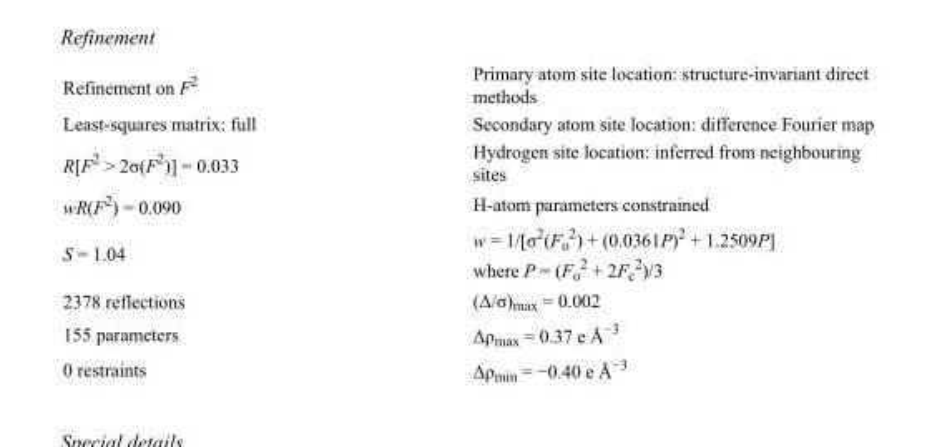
<table><tbody><tr><td>Refinement on F<sup>2</sup></td><td>Primary atom site location: structure-invariant direct methods</td></tr><tr><td>Least-squares matrix: full</td><td>Secondary atom site location: difference Fourier map</td></tr><tr><td>R[F<sup>2</sup> &gt; 2σ(F<sup>2</sup>)] = 0.033</td><td>Hydrogen site location: inferred from neighbouring sites</td></tr><tr><td>wR(F<sup>2</sup>) = 0.090</td><td>H-atom parameters constrained</td></tr><tr><td>S = 1.04</td><td>w = 1/[σ<sup>2</sup>(F<sub>o</sub> <sup>2</sup>) + (0.0361P)<sup>2</sup> + 1.2509P] where P = (F<sub>o</sub> <sup>2</sup> + 2F<sub>c</sub> <sup>2</sup>)/3</td></tr><tr><td>2378 reflections</td><td>(Δ/σ)<sub>max</sub> = 0.002</td></tr><tr><td>155 parameters</td><td>Δρ<sub>max</sub> = 0.37 e Å<sup>−3</sup></td></tr><tr><td>0 restraints</td><td>Δρ<sub>min</sub> = −0.40 e Å<sup>−3</sup></td></tr></tbody></table>